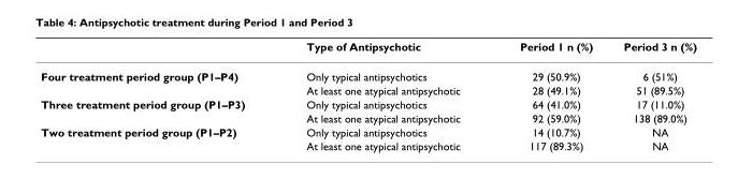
<table><thead><tr><td></td><td>Type of Antipsychotic</td><td>Period 1 n (%)</td><td>Period 3 n (%)</td></tr></thead><tbody><tr><td rowspan="2">Four treatment period group (P1–P4)</td><td>Only typical antipsychotics</td><td>29 (50.9%)</td><td>6 (51%)</td></tr><tr><td>At least one atypical antipsychotic</td><td>28 (49.1%)</td><td>51 (89.5%)</td></tr><tr><td rowspan="2">Three treatment period group (P1–P3)</td><td>Only typical antipsychotics</td><td>64 (41.0%)</td><td>17 (11.0%)</td></tr><tr><td>At least one atypical antipsychotic</td><td>92 (59.0%)</td><td>138 (89.0%)</td></tr><tr><td rowspan="2">Two treatment period group (P1–P2)</td><td>Only typical antipsychotics</td><td>14 (10.7%)</td><td>NA</td></tr><tr><td>At least one atypical antipsychotic</td><td>117 (89.3%)</td><td>NA</td></tr></tbody></table>